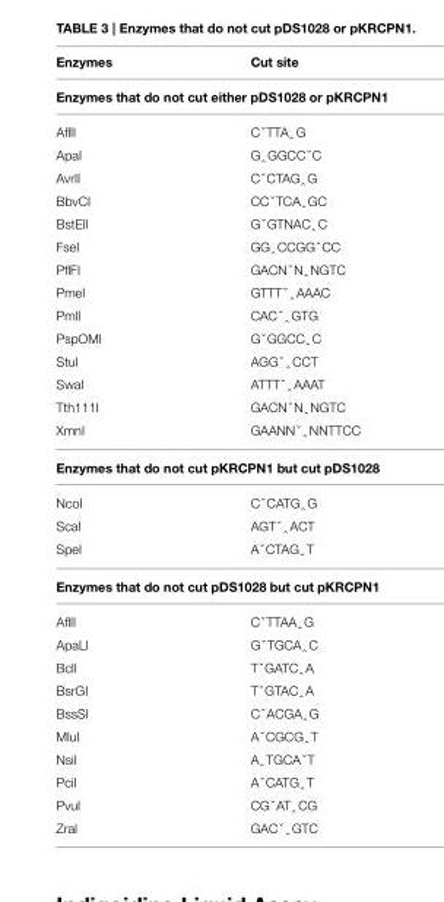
<table><thead><tr><td>Enzymes</td><td>Cut site</td></tr></thead><tbody><tr><td colspan="2">Enzymes that do not cut either pDS1028 or pKRCPN1</td></tr><tr><td>AflII</td><td>C ˇ TTAˆ G</td></tr><tr><td>ApaI</td><td>G<sub>ˆ</sub> GGCC ˇ C</td></tr><tr><td>AvrII</td><td>C ˇ CTAG<sub>ˆ</sub> G</td></tr><tr><td>BbvCI</td><td>CC ˇ TCA<sub>ˆ</sub> GC</td></tr><tr><td>BstEII</td><td>G ˇ GTNAC<sub>ˆ</sub> C</td></tr><tr><td>FseI</td><td>GG<sub>ˆ</sub> CCGG ˇ CC</td></tr><tr><td>PflFI</td><td>GACN ˇ N<sub>ˆ</sub> NGTC</td></tr><tr><td>PmeI</td><td>GTTT ˇ <sub>ˆ</sub> AAAC</td></tr><tr><td>PmlI</td><td>CAC ˇ <sub>ˆ</sub> GTG</td></tr><tr><td>PspOMI</td><td>G ˇ GGCC<sub>ˆ</sub> C</td></tr><tr><td>StuI</td><td>AGG ˇ <sub>ˆ</sub> CCT</td></tr><tr><td>SwaI</td><td>ATTT ˇ <sub>ˆ</sub> AAAT</td></tr><tr><td>Tth111I</td><td>GACN ˇ N<sub>ˆ</sub> NGTC</td></tr><tr><td>XmnI</td><td>GAANN ˇ <sub>ˆ</sub> NNTTCC</td></tr><tr><td colspan="2">Enzymes that do not cut pKRCPN1 but cut pDS1028</td></tr><tr><td>NcoI</td><td>C ˇ CATG<sub>ˆ</sub> G</td></tr><tr><td>ScaI</td><td>AGT ˇ <sub>ˆ</sub> ACT</td></tr><tr><td>SpeI</td><td>A ˇ CTAG<sub>ˆ</sub> T</td></tr><tr><td colspan="2">Enzymes that do not cut pDS1028 but cut pKRCPN1</td></tr><tr><td>AflII</td><td>C ˇ TTAA<sub>ˆ</sub> G</td></tr><tr><td>ApaLI</td><td>G ˇ TGCA<sub>ˆ</sub> C</td></tr><tr><td>BclI</td><td>T ˇ GATC<sub>ˆ</sub> A</td></tr><tr><td>BsrGI</td><td>T ˇ GTAC<sub>ˆ</sub> A</td></tr><tr><td>BssSI</td><td>C ˇ ACGA<sub>ˆ</sub> G</td></tr><tr><td>MluI</td><td>A ˇ CGCG<sub>ˆ</sub> T</td></tr><tr><td>NsiI</td><td>A<sub>ˆ</sub> TGCA ˇ T</td></tr><tr><td>PciI</td><td>A ˇ CATG<sub>ˆ</sub> T</td></tr><tr><td>PvuI</td><td>CG ˇ AT<sub>ˆ</sub> CG</td></tr><tr><td>ZraI</td><td>GAC ˇ <sub>ˆ</sub> GTC</td></tr></tbody></table>